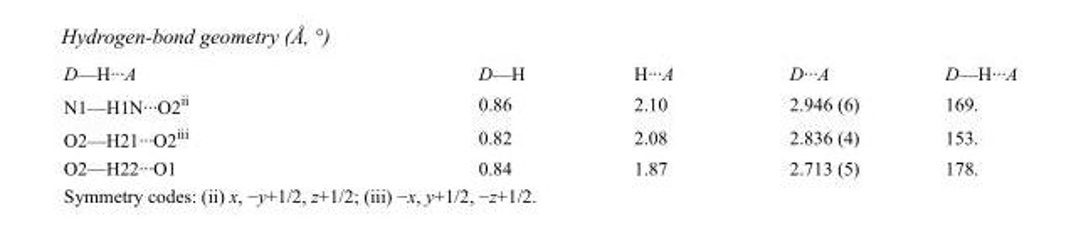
<table><tbody><tr><td>D—H···A</td><td>D—H</td><td>H···A</td><td>D···A</td><td>D—H···A</td></tr><tr><td>N1—H1N···O2<sup>ii</sup></td><td>0.86</td><td>2.10</td><td>2.946 (6)</td><td>169.</td></tr><tr><td>O2—H21···O2<sup>iii</sup></td><td>0.82</td><td>2.08</td><td>2.836 (4)</td><td>153.</td></tr><tr><td>O2—H22···O1</td><td>0.84</td><td>1.87</td><td>2.713 (5)</td><td>178.</td></tr></tbody></table>